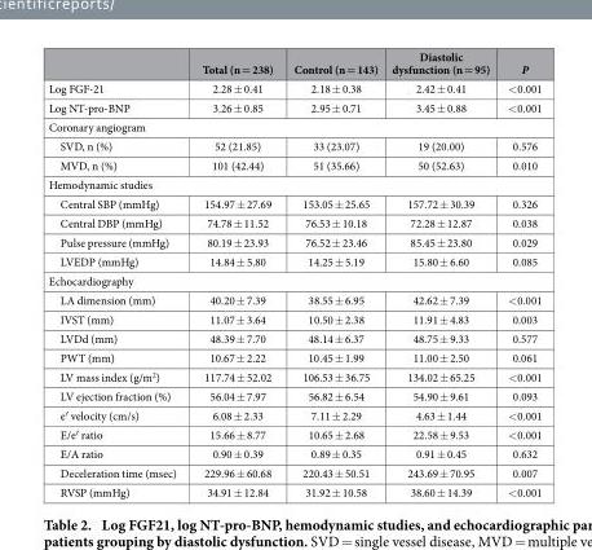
<table><thead><tr><td></td><td>Total (n = 238)</td><td>Control (n = 143)</td><td>Diastolic dysfunction (n = 95)</td><td>P</td></tr></thead><tbody><tr><td>Log FGF-21</td><td>2.28 ± 0.41</td><td>2.18 ± 0.38</td><td>2.42 ± 0.41</td><td>&lt; 0.001</td></tr><tr><td>Log NT-pro-BNP</td><td>3.26 ± 0.85</td><td>2.95 ± 0.71</td><td>3.45 ± 0.88</td><td>&lt; 0.001</td></tr><tr><td colspan="5">Coronary angiogram</td></tr><tr><td>SVD, n (%)</td><td>52 (21.85)</td><td>33 (23.07)</td><td>19 (20.00)</td><td>0.576</td></tr><tr><td>MVD, n (%)</td><td>101 (42.44)</td><td>51 (35.66)</td><td>50 (52.63)</td><td>0.010</td></tr><tr><td colspan="5">Hemodynamic studies</td></tr><tr><td>Central SBP (mmHg)</td><td>154.97 ± 27.69</td><td>153.05 ± 25.65</td><td>157.72 ± 30.39</td><td>0.326</td></tr><tr><td>Central DBP (mmHg)</td><td>74.78 ± 11.52</td><td>76.53 ± 10.18</td><td>72.28 ± 12.87</td><td>0.038</td></tr><tr><td>Pulse pressure (mmHg)</td><td>80.19 ± 23.93</td><td>76.52 ± 23.46</td><td>85.45 ± 23.80</td><td>0.029</td></tr><tr><td>LVEDP (mmHg)</td><td>14.84 ± 5.80</td><td>14.25 ± 5.19</td><td>15.80 ± 6.60</td><td>0.085</td></tr><tr><td colspan="5">Echocardiography</td></tr><tr><td>LA dimension (mm)</td><td>40.20 ± 7.39</td><td>38.55 ± 6.95</td><td>42.62 ± 7.39</td><td>&lt; 0.001</td></tr><tr><td>IVST (mm)</td><td>11.07 ± 3.64</td><td>10.50 ± 2.38</td><td>11.91 ± 4.83</td><td>0.003</td></tr><tr><td>LVDd (mm)</td><td>48.39 ± 7.70</td><td>48.14 ± 6.37</td><td>48.75 ± 9.33</td><td>0.577</td></tr><tr><td>PWT (mm)</td><td>10.67 ± 2.22</td><td>10.45 ± 1.99</td><td>11.00 ± 2.50</td><td>0.061</td></tr><tr><td>LV mass index (g/m<sup>2</sup>)</td><td>117.74 ± 52.02</td><td>106.53 ± 36.75</td><td>134.02 ± 65.25</td><td>&lt; 0.001</td></tr><tr><td>LV ejection fraction (%)</td><td>56.04 ± 7.97</td><td>56.82 ± 6.54</td><td>54.90 ± 9.61</td><td>0.093</td></tr><tr><td>e′ velocity (cm/s)</td><td>6.08 ± 2.33</td><td>7.11 ± 2.29</td><td>4.63 ± 1.44</td><td>&lt; 0.001</td></tr><tr><td>E/e′ ratio</td><td>15.66 ± 8.77</td><td>10.65 ± 2.68</td><td>22.58 ± 9.53</td><td>&lt; 0.001</td></tr><tr><td>E/A ratio</td><td>0.90 ± 0.39</td><td>0.89 ± 0.35</td><td>0.91 ± 0.45</td><td>0.632</td></tr><tr><td>Deceleration time (msec)</td><td>229.96 ± 60.68</td><td>220.43 ± 50.51</td><td>243.69 ± 70.95</td><td>0.007</td></tr><tr><td>RVSP (mmHg)</td><td>34.91 ± 12.84</td><td>31.92 ± 10.58</td><td>38.60 ± 14.39</td><td>&lt; 0.001</td></tr></tbody></table>